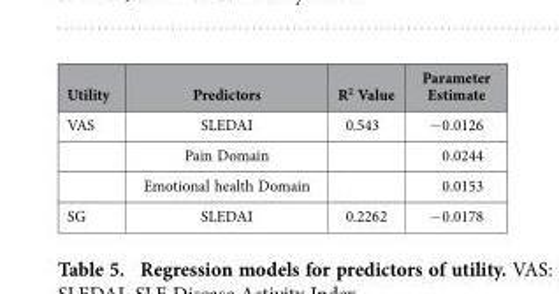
<table><thead><tr><td>Utility</td><td>Predictors</td><td>R<sup>2</sup> Value</td><td>Parameter Estimate</td></tr></thead><tbody><tr><td rowspan="3">VAS</td><td>SLEDAI</td><td>0.543</td><td>− 0.0126</td></tr><tr><td>Pain Domain</td><td></td><td>0.0244</td></tr><tr><td>Emotional health Domain</td><td></td><td>0.0153</td></tr><tr><td>SG</td><td>SLEDAI</td><td>0.2262</td><td>− 0.0178</td></tr></tbody></table>